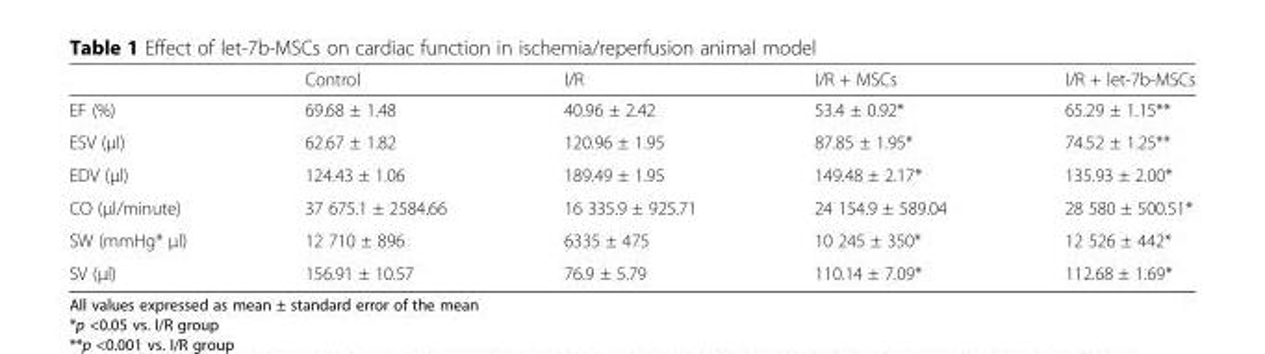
<table><thead><tr><td></td><td>Control</td><td>I/R</td><td>I/R + MSCs</td><td>I/R + let-7b-MSCs</td></tr></thead><tbody><tr><td>EF (%)</td><td>69.68 ± 1.48</td><td>40.96 ± 2.42</td><td>53.4 ± 0.92*</td><td>65.29 ± 1.15**</td></tr><tr><td>ESV (μl)</td><td>62.67 ± 1.82</td><td>120.96 ± 1.95</td><td>87.85 ± 1.95*</td><td>74.52 ± 1.25**</td></tr><tr><td>EDV (μl)</td><td>124.43 ± 1.06</td><td>189.49 ± 1.95</td><td>149.48 ± 2.17*</td><td>135.93 ± 2.00*</td></tr><tr><td>CO (μl/minute)</td><td>37 675.1 ± 2584.66</td><td>16 335.9 ± 925.71</td><td>24 154.9 ± 589.04</td><td>28 580 ± 500.51*</td></tr><tr><td>SW (mmHg* μl)</td><td>12 710 ± 896</td><td>6335 ± 475</td><td>10 245 ± 350*</td><td>12 526 ± 442*</td></tr><tr><td>SV (μl)</td><td>156.91 ± 10.57</td><td>76.9 ± 5.79</td><td>110.14 ± 7.09*</td><td>112.68 ± 1.69*</td></tr></tbody></table>